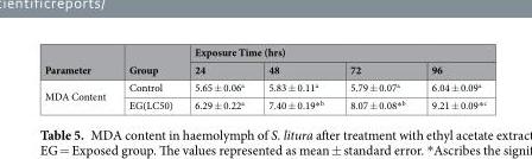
<table><thead><tr><td rowspan="2">Parameter</td><td rowspan="2">Group</td><td colspan="4">Exposure Time (hrs)</td></tr><tr><td>24</td><td>48</td><td>72</td><td>96</td></tr></thead><tbody><tr><td rowspan="2">MDA Content</td><td>Control</td><td>5.65 ± 0.06<sup>a</sup></td><td>5.83 ± 0.11<sup>a</sup></td><td>5.79 ± 0.07<sup>a</sup></td><td>6.04 ± 0.09<sup>a</sup></td></tr><tr><td>EG(LC50)</td><td>6.29 ± 0.22<sup>a</sup></td><td>7.40 ± 0.19*<sup>b</sup></td><td>8.07 ± 0.08*<sup>b</sup></td><td>9.21 ± 0.09*<sup>c</sup></td></tr></tbody></table>